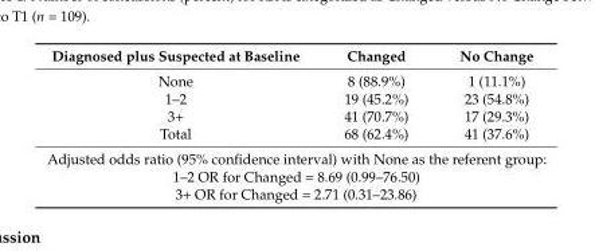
<table><thead><tr><td>Diagnosed plus Suspected at Baseline</td><td>Changed</td><td>No Change</td></tr></thead><tbody><tr><td>None</td><td>8 (88.9%)</td><td>1 (11.1%)</td></tr><tr><td>1–2</td><td>19 (45.2%)</td><td>23 (54.8%)</td></tr><tr><td>3+</td><td>41 (70.7%)</td><td>17 (29.3%)</td></tr><tr><td>Total</td><td>68 (62.4%)</td><td>41 (37.6%)</td></tr><tr><td colspan="3">Adjusted odds ratio (95% confidence interval) with None as the referent group: 1–2 OR for Changed = 8.69 (0.99–76.50) 3+ OR for Changed = 2.71 (0.31–23.86)</td></tr></tbody></table>